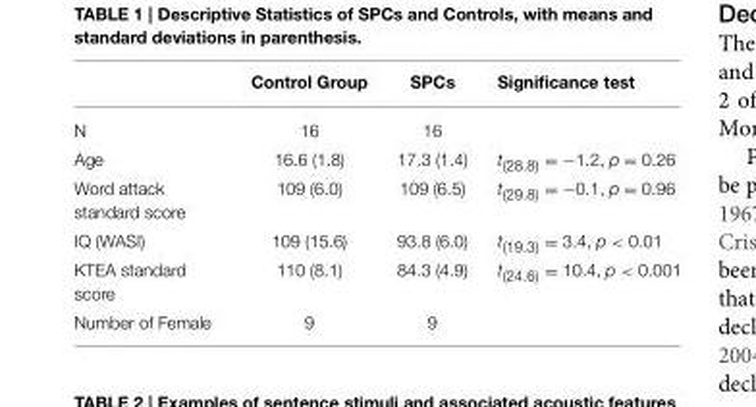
<table><thead><tr><td></td><td>Control Group</td><td>SPCs</td><td>Significance test</td></tr></thead><tbody><tr><td>N</td><td>16</td><td>16</td><td></td></tr><tr><td>Age</td><td>16.6 (1.8)</td><td>17.3 (1.4)</td><td><sup>t</sup>(28.8) = −1.2, p = 0.26</td></tr><tr><td>Word attack standard score</td><td>109 (6.0)</td><td>109 (6.5)</td><td><sup>t</sup>(29.8) = −0.1, p = 0.96</td></tr><tr><td>IQ (WASI)</td><td>109 (15.6)</td><td>93.8 (6.0)</td><td><sup>t</sup>(19.3) = 3.4, p &lt; 0.01</td></tr><tr><td>KTEA standard score</td><td>110 (8.1)</td><td>84.3 (4.9)</td><td><sup>t</sup>(24.6) = 10.4, p &lt; 0.001</td></tr><tr><td>Number of Female</td><td>9</td><td>9</td><td></td></tr></tbody></table>